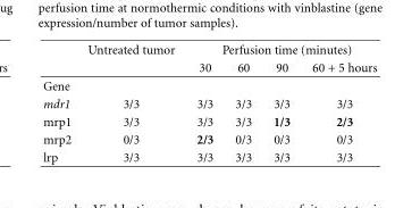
<table><thead><tr><td rowspan="2"></td><td rowspan="2">Untreated tumor</td><td colspan="4">Perfusion time (minutes)</td></tr><tr><td>30</td><td>60</td><td>90</td><td>60 + 5 hours</td></tr></thead><tbody><tr><td colspan="6">Gene</td></tr><tr><td>mdr1</td><td>3/3</td><td>3/3</td><td>3/3</td><td>3/3</td><td>3/3</td></tr><tr><td>mrp1</td><td>3/3</td><td>3/3</td><td>3/3</td><td>1/3</td><td>2/3</td></tr><tr><td>mrp2</td><td>0/3</td><td>2/3</td><td>0/3</td><td>0/3</td><td>0/3</td></tr><tr><td>lrp</td><td>3/3</td><td>3/3</td><td>3/3</td><td>3/3</td><td>3/3</td></tr></tbody></table>